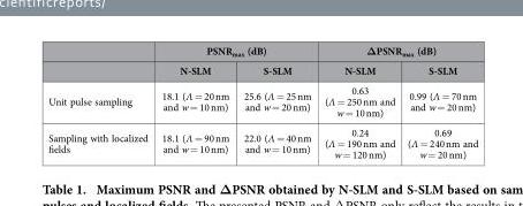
<table><thead><tr><td rowspan="2"></td><td colspan="2">PSNR<sub>max</sub> (dB)</td><td colspan="2">ΔPSNR<sub>max</sub> (dB)</td></tr><tr><td>N-SLM</td><td>S-SLM</td><td>N-SLM</td><td>S-SLM</td></tr></thead><tbody><tr><td>Unit pulse sampling</td><td>18.1 (Λ = 20 nm and w = 10 nm)</td><td>25.6 (Λ = 25 nm and w = 20 nm)</td><td>0.63 (Λ = 250 nm and w = 10 nm)</td><td>0.99 (Λ = 70 nm and w = 20 nm)</td></tr><tr><td>Sampling with localized fields</td><td>18.1 (Λ = 90 nm and w = 10 nm)</td><td>22.0 (Λ = 40 nm and w = 10 nm)</td><td>0.24 (Λ = 190 nm and w = 120 nm)</td><td>0.69 (Λ = 240 nm and w = 20 nm)</td></tr></tbody></table>